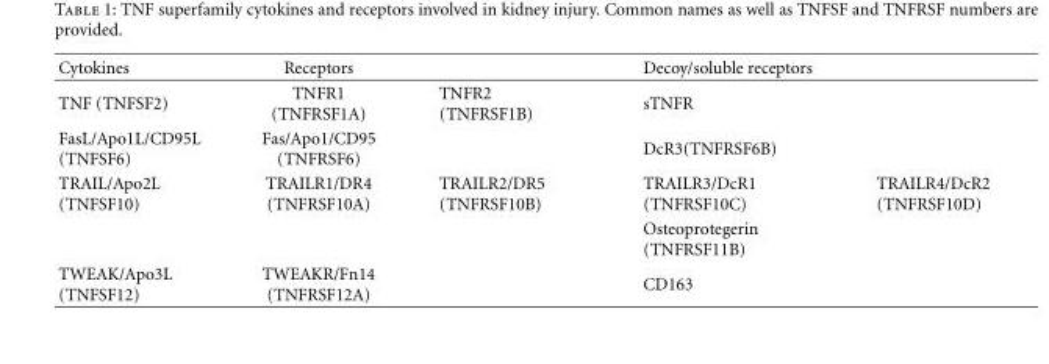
<table><thead><tr><td>Cytokines</td><td>Receptors</td><td></td><td>Decoy/soluble receptors</td><td></td></tr></thead><tbody><tr><td>TNF (TNFSF2)</td><td>TNFR1 (TNFRSF1A)</td><td>TNFR2 (TNFRSF1B)</td><td>sTNFR</td><td></td></tr><tr><td>FasL/Apo1L/CD95L (TNFSF6)</td><td>Fas/Apo1/CD95 (TNFRSF6)</td><td></td><td>DcR3(TNFRSF6B)</td><td></td></tr><tr><td rowspan="2">TRAIL/Apo2L (TNFSF10)</td><td>TRAILR1/DR4 (TNFRSF10A)</td><td>TRAILR2/DR5 (TNFRSF10B)</td><td>TRAILR3/DcR1 (TNFRSF10C)</td><td>TRAILR4/DcR2 (TNFRSF10D)</td></tr><tr><td></td><td></td><td>Osteoprotegerin (TNFRSF11B)</td><td></td></tr><tr><td>TWEAK/Apo3L (TNFSF12)</td><td>TWEAKR/Fn14 (TNFRSF12A)</td><td></td><td>CD163</td><td></td></tr></tbody></table>